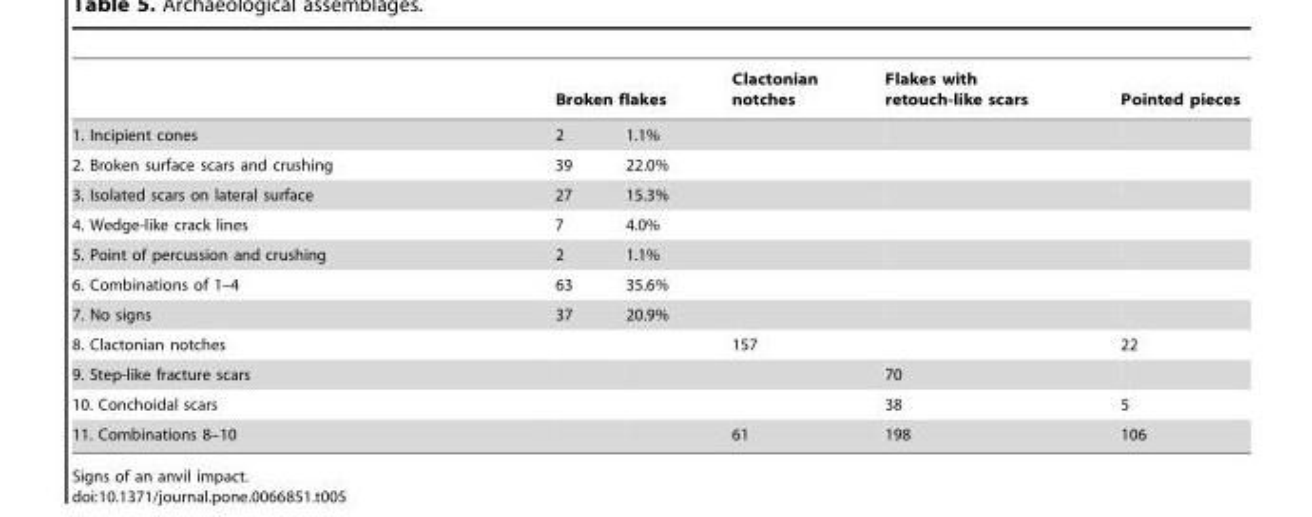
<table><thead><tr><td rowspan="2">1. Incipient cones</td><td colspan="2">Broken flakes</td><td rowspan="2">Clactonian notches</td><td rowspan="2">Flakes with retouch-like scars</td><td rowspan="2">Pointed pieces</td></tr><tr><td>2</td><td>1.1%</td></tr></thead><tbody><tr><td>2. Broken surface scars and crushing</td><td>39</td><td>22.0%</td><td></td><td></td><td></td></tr><tr><td>3. Isolated scars on lateral surface</td><td>27</td><td>15.3%</td><td></td><td></td><td></td></tr><tr><td>4. Wedge-like crack lines</td><td>7</td><td>4.0%</td><td></td><td></td><td></td></tr><tr><td>5. Point of percussion and crushing</td><td>2</td><td>1.1%</td><td></td><td></td><td></td></tr><tr><td>6. Combinations of 1–4</td><td>63</td><td>35.6%</td><td></td><td></td><td></td></tr><tr><td>7. No signs</td><td>37</td><td>20.9%</td><td></td><td></td><td></td></tr><tr><td>8. Clactonian notches</td><td></td><td></td><td>157</td><td></td><td>22</td></tr><tr><td>9. Step-like fracture scars</td><td></td><td></td><td></td><td>70</td><td></td></tr><tr><td>10. Conchoidal scars</td><td></td><td></td><td></td><td>38</td><td>5</td></tr><tr><td>11. Combinations 8–10</td><td></td><td></td><td>61</td><td>198</td><td>106</td></tr></tbody></table>